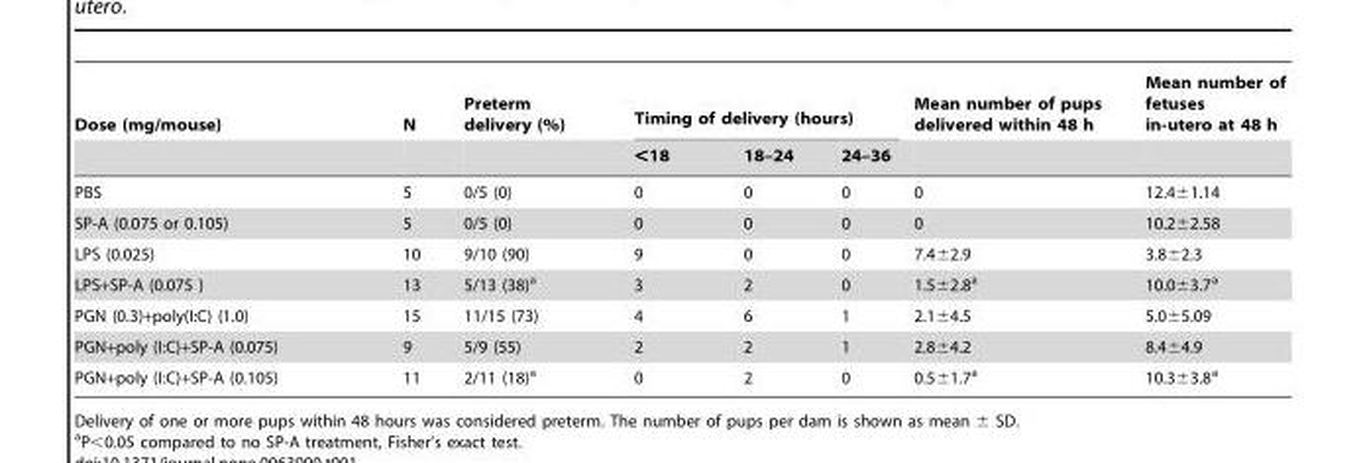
<table><thead><tr><td rowspan="2">Dose (mg/mouse)</td><td rowspan="2">N</td><td rowspan="2">Preterm delivery (%)</td><td colspan="3">Timing of delivery (hours)</td><td rowspan="2">Mean number of pups delivered within 48 h</td><td rowspan="2">Mean number of fetuses in-utero at 48 h</td></tr><tr><td>&lt;18</td><td>18–24</td><td>24–36</td></tr></thead><tbody><tr><td>PBS</td><td>5</td><td>0/5 (0)</td><td>0</td><td>0</td><td>0</td><td>0</td><td>12.4±1.14</td></tr><tr><td>SP-A (0.075 or 0.105)</td><td>5</td><td>0/5 (0)</td><td>0</td><td>0</td><td>0</td><td>0</td><td>10.2±2.58</td></tr><tr><td>LPS (0.025)</td><td>10</td><td>9/10 (90)</td><td>9</td><td>0</td><td>0</td><td>7.4±2.9</td><td>3.8±2.3</td></tr><tr><td>LPS+SP-A (0.075 )</td><td>13</td><td>5/13 (38)<sup>a</sup></td><td>3</td><td>2</td><td>0</td><td>1.5±2.8<sup>a</sup></td><td>10.0±3.7<sup>a</sup></td></tr><tr><td>PGN (0.3)+poly(I:C) (1.0)</td><td>15</td><td>11/15 (73)</td><td>4</td><td>6</td><td>1</td><td>2.1±4.5</td><td>5.0±5.09</td></tr><tr><td>PGN+poly (I:C)+SP-A (0.075)</td><td>9</td><td>5/9 (55)</td><td>2</td><td>2</td><td>1</td><td>2.8±4.2</td><td>8.4±4.9</td></tr><tr><td>PGN+poly (I:C)+SP-A (0.105)</td><td>11</td><td>2/11 (18)<sup>a</sup></td><td>0</td><td>2</td><td>0</td><td>0.5±1.7<sup>a</sup></td><td>10.3±3.8<sup>a</sup></td></tr></tbody></table>